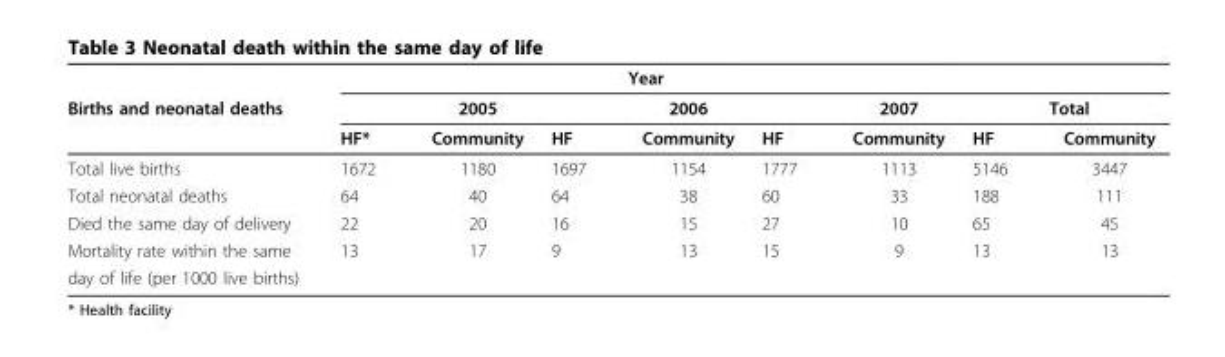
<table><thead><tr><td rowspan="3">Births and neonatal deaths</td><td rowspan="3">HF*</td><td rowspan="3">2005 Community</td><td rowspan="3">HF</td><td rowspan="3">Year 2006 Community</td><td rowspan="3">HF</td><td rowspan="3">2007 Community</td><td rowspan="3">HF</td><td rowspan="3">Total Community</td></tr><tr></tr><tr></tr></thead><tbody><tr><td>Total live births</td><td>1672</td><td>1180</td><td>1697</td><td>1154</td><td>1777</td><td>1113</td><td>5146</td><td>3447</td></tr><tr><td>Total neonatal deaths</td><td>64</td><td>40</td><td>64</td><td>38</td><td>60</td><td>33</td><td>188</td><td>111</td></tr><tr><td>Died the same day of delivery</td><td>22</td><td>20</td><td>16</td><td>15</td><td>27</td><td>10</td><td>65</td><td>45</td></tr><tr><td>Mortality rate within the same</td><td>13</td><td>17</td><td>9</td><td>13</td><td>15</td><td>9</td><td>13</td><td>13</td></tr><tr><td>day of life (per 1000 live births)</td><td></td><td></td><td></td><td></td><td></td><td></td><td></td><td></td></tr></tbody></table>